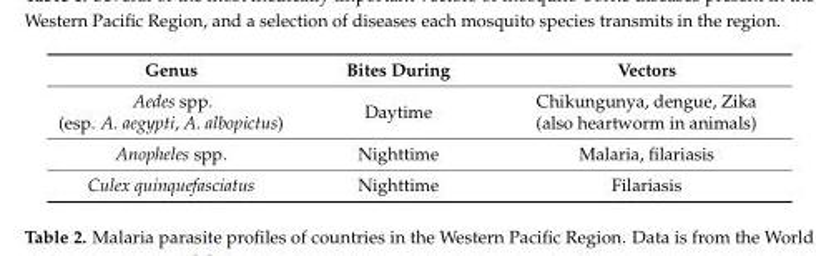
<table><thead><tr><td>Genus</td><td>Bites During</td><td>Vectors</td></tr></thead><tbody><tr><td>Aedes spp. (esp. A. aegypti, A. albopictus)</td><td>Daytime</td><td>Chikungunya, dengue, Zika (also heartworm in animals)</td></tr><tr><td>Anopheles spp.</td><td>Nighttime</td><td>Malaria, filariasis</td></tr><tr><td>Culex quinquefasciatus</td><td>Nighttime</td><td>Filariasis</td></tr></tbody></table>